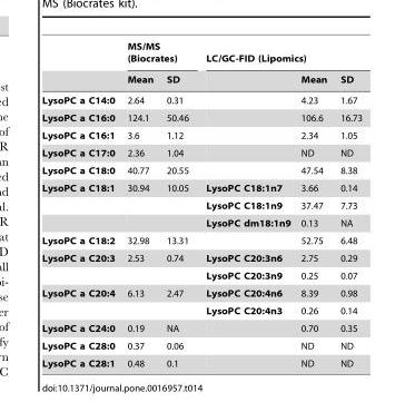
<table><thead><tr><td rowspan="2"></td><td colspan="2">MS/MS (Biocrates)</td><td colspan="3">LC/GC-FID (Lipomics)</td></tr><tr><td>Mean</td><td>SD</td><td></td><td>Mean</td><td>SD</td></tr></thead><tbody><tr><td>LysoPC a C14:0</td><td>2.64</td><td>0.31</td><td></td><td>4.23</td><td>1.67</td></tr><tr><td>LysoPC a C16:0</td><td>124.1</td><td>50.46</td><td></td><td>106.6</td><td>16.73</td></tr><tr><td>LysoPC a C16:1</td><td>3.6</td><td>1.12</td><td></td><td>2.34</td><td>1.05</td></tr><tr><td>LysoPC a C17:0</td><td>2.36</td><td>1.04</td><td></td><td>ND</td><td>ND</td></tr><tr><td>LysoPC a C18:0</td><td>40.77</td><td>20.55</td><td></td><td>47.54</td><td>8.38</td></tr><tr><td rowspan="3">LysoPC a C18:1</td><td>30.94</td><td>10.05</td><td>LysoPC C18:1n7</td><td>3.66</td><td>0.14</td></tr><tr><td></td><td></td><td>LysoPC C18:1n9</td><td>37.47</td><td>7.73</td></tr><tr><td></td><td></td><td>LysoPC dm18:1n9</td><td>0.13</td><td>NA</td></tr><tr><td>LysoPC a C18:2</td><td>32.98</td><td>13.31</td><td></td><td>52.75</td><td>6.48</td></tr><tr><td rowspan="2">LysoPC a C20:3</td><td>2.53</td><td>0.74</td><td>LysoPC C20:3n6</td><td>2.75</td><td>0.29</td></tr><tr><td></td><td></td><td>LysoPC C20:3n9</td><td>0.25</td><td>0.07</td></tr><tr><td rowspan="2">LysoPC a C20:4</td><td>6.13</td><td>2.47</td><td>LysoPC C20:4n6</td><td>8.39</td><td>0.98</td></tr><tr><td></td><td></td><td>LysoPC C20:4n3</td><td>0.26</td><td>0.14</td></tr><tr><td>LysoPC a C24:0</td><td>0.19</td><td>NA</td><td></td><td>0.70</td><td>0.35</td></tr><tr><td>LysoPC a C28:0</td><td>0.37</td><td>0.06</td><td></td><td>ND</td><td>ND</td></tr><tr><td>LysoPC a C28:1</td><td>0.48</td><td>0.1</td><td></td><td>ND</td><td>ND</td></tr></tbody></table>